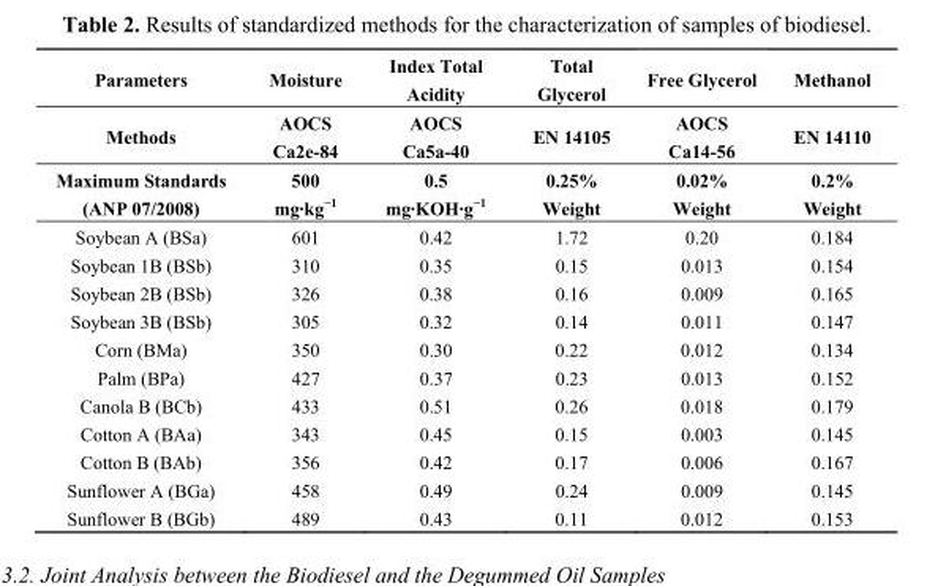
<table><thead><tr><td rowspan="3">Parameters Methods Maximum Standards (ANP 07/2008)</td><td rowspan="3">Moisture AOCS Ca2e-84 500 mg·kg−1</td><td rowspan="3">Index Total Acidity AOCS Ca5a-40 0.5 mg·KOH·g−1</td><td rowspan="3">Total Glycerol EN 14105 0.25% Weight</td><td rowspan="3">Free Glycerol AOCS Ca14-56 0.02% Weight</td><td rowspan="3">Methanol EN 14110 0.2% Weight</td></tr><tr></tr><tr></tr></thead><tbody><tr><td>Soybean A (BSa)</td><td>601</td><td>0.42</td><td>1.72</td><td>0.20</td><td>0.184</td></tr><tr><td>Soybean 1B (BSb)</td><td>310</td><td>0.35</td><td>0.15</td><td>0.013</td><td>0.154</td></tr><tr><td>Soybean 2B (BSb)</td><td>326</td><td>0.38</td><td>0.16</td><td>0.009</td><td>0.165</td></tr><tr><td>Soybean 3B (BSb)</td><td>305</td><td>0.32</td><td>0.14</td><td>0.011</td><td>0.147</td></tr><tr><td>Corn (BMa)</td><td>350</td><td>0.30</td><td>0.22</td><td>0.012</td><td>0.134</td></tr><tr><td>Palm (BPa)</td><td>427</td><td>0.37</td><td>0.23</td><td>0.013</td><td>0.152</td></tr><tr><td>Canola B (BCb)</td><td>433</td><td>0.51</td><td>0.26</td><td>0.018</td><td>0.179</td></tr><tr><td>Cotton A (BAa)</td><td>343</td><td>0.45</td><td>0.15</td><td>0.003</td><td>0.145</td></tr><tr><td>Cotton B (BAb)</td><td>356</td><td>0.42</td><td>0.17</td><td>0.006</td><td>0.167</td></tr><tr><td>Sunflower A (BGa)</td><td>458</td><td>0.49</td><td>0.24</td><td>0.009</td><td>0.145</td></tr><tr><td>Sunflower B (BGb)</td><td>489</td><td>0.43</td><td>0.11</td><td>0.012</td><td>0.153</td></tr></tbody></table>